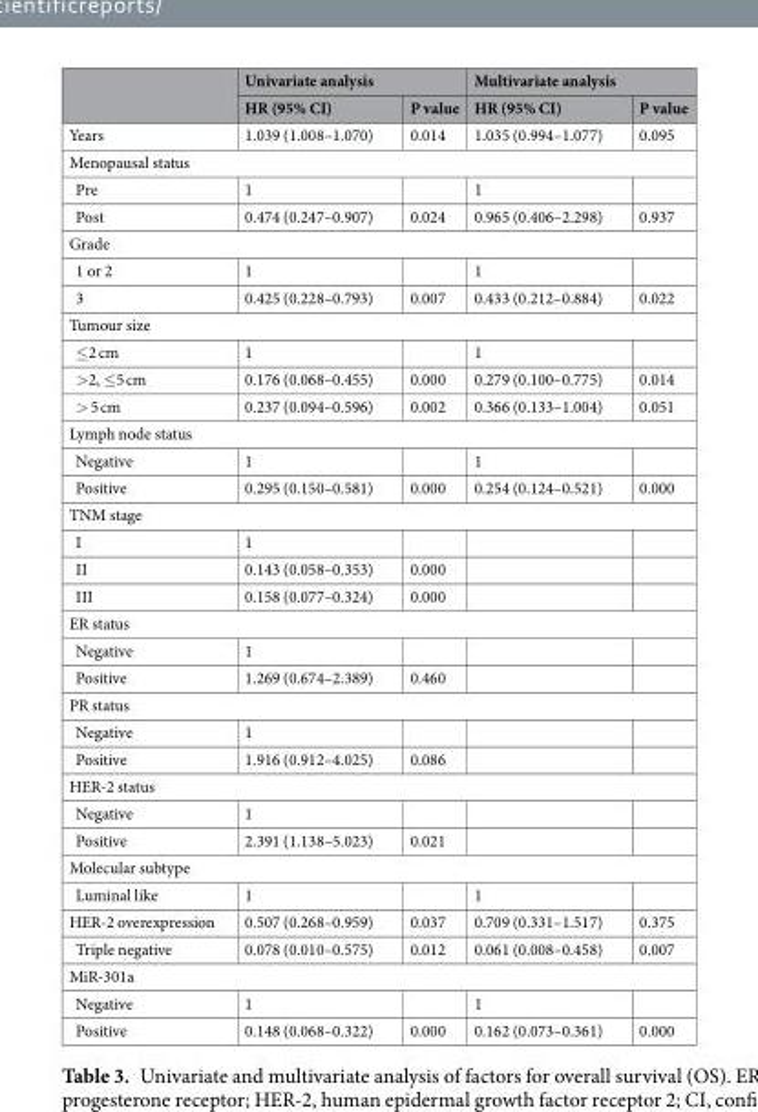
<table><thead><tr><td rowspan="2"></td><td colspan="2">Univariate analysis</td><td colspan="2">Multivariate analysis</td></tr><tr><td>HR (95% CI)</td><td>P value</td><td>HR (95% CI)</td><td>P value</td></tr></thead><tbody><tr><td>Years</td><td>1.039 (1.008–1.070)</td><td>0.014</td><td>1.035 (0.994–1.077)</td><td>0.095</td></tr><tr><td colspan="5">Menopausal status</td></tr><tr><td>Pre</td><td>1</td><td></td><td>1</td><td></td></tr><tr><td>Post</td><td>0.474 (0.247–0.907)</td><td>0.024</td><td>0.965 (0.406–2.298)</td><td>0.937</td></tr><tr><td colspan="5">Grade</td></tr><tr><td>1 or 2</td><td>1</td><td></td><td>1</td><td></td></tr><tr><td>3</td><td>0.425 (0.228–0.793)</td><td>0.007</td><td>0.433 (0.212–0.884)</td><td>0.022</td></tr><tr><td colspan="5">Tumour size</td></tr><tr><td>≤2 cm</td><td>1</td><td></td><td>1</td><td></td></tr><tr><td>&gt;2, ≤5 cm</td><td>0.176 (0.068–0.455)</td><td>0.000</td><td>0.279 (0.100–0.775)</td><td>0.014</td></tr><tr><td>&gt; 5 cm</td><td>0.237 (0.094–0.596)</td><td>0.002</td><td>0.366 (0.133–1.004)</td><td>0.051</td></tr><tr><td colspan="5">Lymph node status</td></tr><tr><td>Negative</td><td>1</td><td></td><td>1</td><td></td></tr><tr><td>Positive</td><td>0.295 (0.150–0.581)</td><td>0.000</td><td>0.254 (0.124–0.521)</td><td>0.000</td></tr><tr><td colspan="5">TNM stage</td></tr><tr><td>I</td><td>1</td><td></td><td></td><td></td></tr><tr><td>II</td><td>0.143 (0.058–0.353)</td><td>0.000</td><td></td><td></td></tr><tr><td>III</td><td>0.158 (0.077–0.324)</td><td>0.000</td><td></td><td></td></tr><tr><td colspan="5">ER status</td></tr><tr><td>Negative</td><td>1</td><td></td><td></td><td></td></tr><tr><td>Positive</td><td>1.269 (0.674–2.389)</td><td>0.460</td><td></td><td></td></tr><tr><td colspan="5">PR status</td></tr><tr><td>Negative</td><td>1</td><td></td><td></td><td></td></tr><tr><td>Positive</td><td>1.916 (0.912–4.025)</td><td>0.086</td><td></td><td></td></tr><tr><td colspan="5">HER-2 status</td></tr><tr><td>Negative</td><td>1</td><td></td><td></td><td></td></tr><tr><td>Positive</td><td>2.391 (1.138–5.023)</td><td>0.021</td><td></td><td></td></tr><tr><td colspan="5">Molecular subtype</td></tr><tr><td>Luminal like</td><td>1</td><td></td><td>1</td><td></td></tr><tr><td>HER-2 overexpression</td><td>0.507 (0.268–0.959)</td><td>0.037</td><td>0.709 (0.331–1.517)</td><td>0.375</td></tr><tr><td>Triple negative</td><td>0.078 (0.010–0.575)</td><td>0.012</td><td>0.061 (0.008–0.458)</td><td>0.007</td></tr><tr><td colspan="5">MiR-301a</td></tr><tr><td>Negative</td><td>1</td><td></td><td>1</td><td></td></tr><tr><td>Positive</td><td>0.148 (0.068–0.322)</td><td>0.000</td><td>0.162 (0.073–0.361)</td><td>0.000</td></tr></tbody></table>